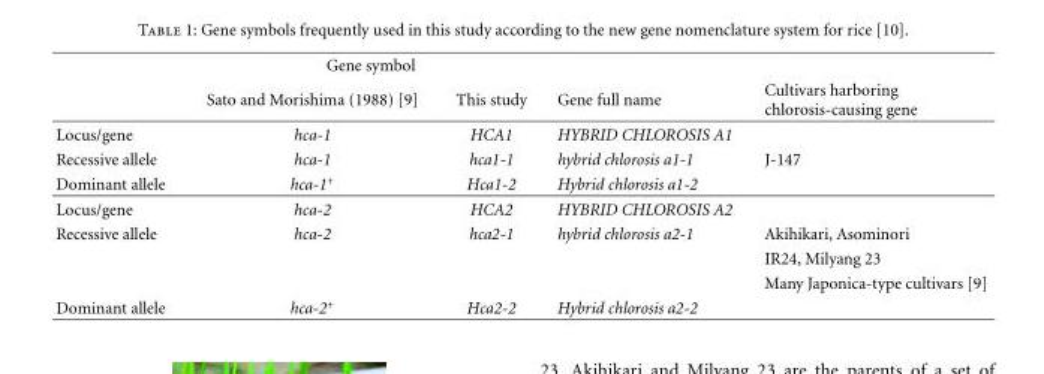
<table><thead><tr><td rowspan="2"></td><td colspan="2">Gene symbol</td><td rowspan="2">Gene full name</td><td rowspan="2">Cultivars harboring chlorosis-causing gene</td></tr><tr><td>Sato and Morishima (1988) [9]</td><td>This study</td></tr></thead><tbody><tr><td>Locus/gene</td><td>hca-1</td><td>HCA1</td><td>HYBRID CHLOROSIS A1</td><td></td></tr><tr><td>Recessive allele</td><td>hca-1</td><td>hca1-1</td><td>hybrid chlorosis a1-1</td><td>J-147</td></tr><tr><td>Dominant allele</td><td>hca-1<sup>+</sup></td><td>Hca1-2</td><td>Hybrid chlorosis a1-2</td><td></td></tr><tr><td>Locus/gene</td><td>hca-2</td><td>HCA2</td><td>HYBRID CHLOROSIS A2</td><td></td></tr><tr><td rowspan="3">Recessive allele</td><td>hca-2</td><td>hca2-1</td><td>hybrid chlorosis a2-1</td><td>Akihikari, Asominori</td></tr><tr><td></td><td></td><td></td><td>IR24, Milyang 23</td></tr><tr><td></td><td></td><td></td><td>Many Japonica-type cultivars [9]</td></tr><tr><td>Dominant allele</td><td>hca-2<sup>+</sup></td><td>Hca2-2</td><td>Hybrid chlorosis a2-2</td><td></td></tr></tbody></table>